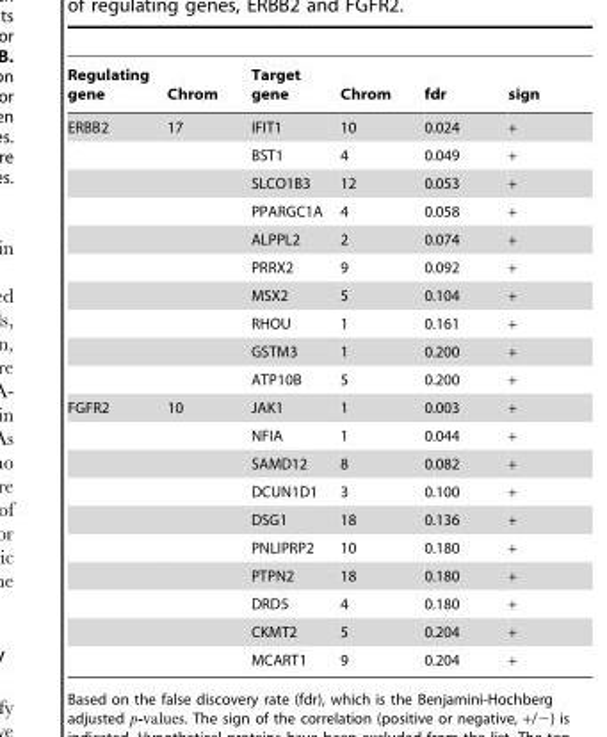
<table><thead><tr><td>Regulating gene</td><td>Chrom</td><td>Target gene</td><td>Chrom</td><td>fdr</td><td>sign</td></tr></thead><tbody><tr><td rowspan="10">ERBB2</td><td>17</td><td>IFIT1</td><td>10</td><td>0.024</td><td>+</td></tr><tr><td></td><td>BST1</td><td>4</td><td>0.049</td><td>+</td></tr><tr><td></td><td>SLCO1B3</td><td>12</td><td>0.053</td><td>+</td></tr><tr><td></td><td>PPARGC1A</td><td>4</td><td>0.058</td><td>+</td></tr><tr><td></td><td>ALPPL2</td><td>2</td><td>0.074</td><td>+</td></tr><tr><td></td><td>PRRX2</td><td>9</td><td>0.092</td><td>+</td></tr><tr><td></td><td>MSX2</td><td>5</td><td>0.104</td><td>+</td></tr><tr><td></td><td>RHOU</td><td>1</td><td>0.161</td><td>+</td></tr><tr><td></td><td>GSTM3</td><td>1</td><td>0.200</td><td>+</td></tr><tr><td></td><td>ATP10B</td><td>5</td><td>0.200</td><td>+</td></tr><tr><td rowspan="10">FGFR2</td><td>10</td><td>JAK1</td><td>1</td><td>0.003</td><td>+</td></tr><tr><td></td><td>NFIA</td><td>1</td><td>0.044</td><td>+</td></tr><tr><td></td><td>SAMD12</td><td>8</td><td>0.082</td><td>+</td></tr><tr><td></td><td>DCUN1D1</td><td>3</td><td>0.100</td><td>+</td></tr><tr><td></td><td>DSG1</td><td>18</td><td>0.136</td><td>+</td></tr><tr><td></td><td>PNLIPRP2</td><td>10</td><td>0.180</td><td>+</td></tr><tr><td></td><td>PTPN2</td><td>18</td><td>0.180</td><td>+</td></tr><tr><td></td><td>DRD5</td><td>4</td><td>0.180</td><td>+</td></tr><tr><td></td><td>CKMT2</td><td>5</td><td>0.204</td><td>+</td></tr><tr><td></td><td>MCART1</td><td>9</td><td>0.204</td><td>+</td></tr></tbody></table>